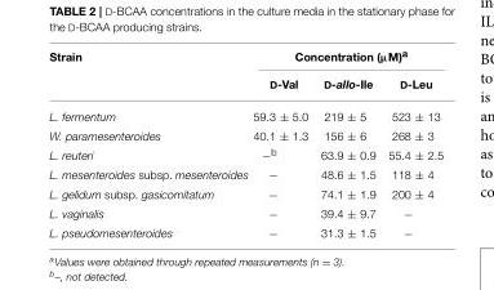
<table><thead><tr><td rowspan="2">Strain</td><td colspan="3">Concentration (µM)<sup>a</sup></td></tr><tr><td>D-Val</td><td>D-allo-Ile</td><td>D-Leu</td></tr></thead><tbody><tr><td>L. fermentum</td><td>59.3 ± 5.0</td><td>219 ± 5</td><td>523 ± 13</td></tr><tr><td>W. paramesenteroides</td><td>40.1 ± 1.3</td><td>156 ± 6</td><td>268 ± 3</td></tr><tr><td>L. reuteri</td><td>−<sup>b</sup></td><td>63.9 ± 0.9</td><td>55.4 ± 2.5</td></tr><tr><td>L. mesenteroides subsp. mesenteroides</td><td>−</td><td>48.6 ± 1.5</td><td>118 ± 4</td></tr><tr><td>L. gelidum subsp. gasicomitatum</td><td>−</td><td>74.1 ± 1.9</td><td>200 ± 4</td></tr><tr><td>L. vaginalis</td><td>−</td><td>39.4 ± 9.7</td><td>−</td></tr><tr><td>L. pseudomesenteroides</td><td>−</td><td>31.3 ± 1.5</td><td>−</td></tr></tbody></table>